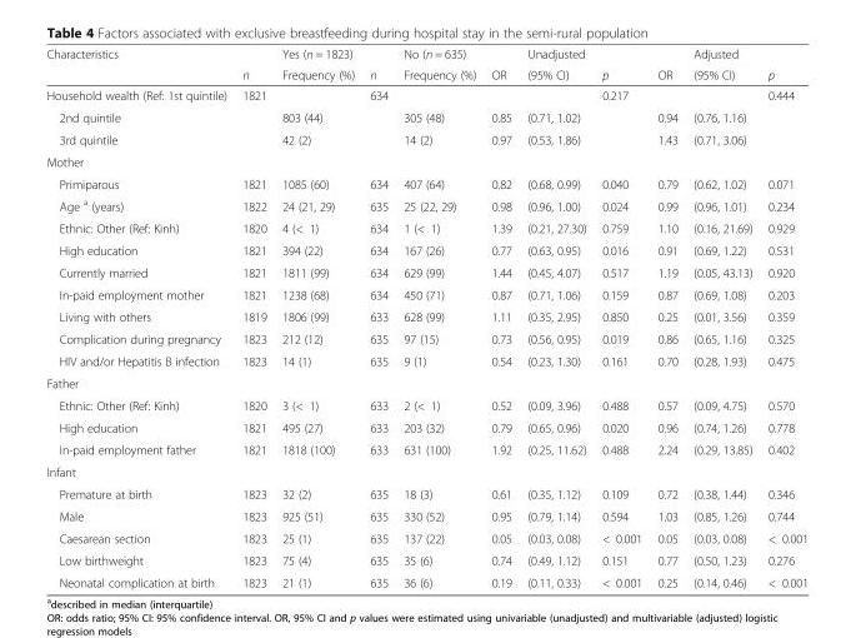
<table><thead><tr><td rowspan="2">Characteristics</td><td rowspan="2">n</td><td rowspan="2">Yes (n = 1823) Frequency (%)</td><td rowspan="2">n</td><td rowspan="2">No (n = 635) Frequency (%)</td><td rowspan="2">OR</td><td rowspan="2">Unadjusted (95% CI)</td><td rowspan="2">p</td><td rowspan="2">OR</td><td rowspan="2">Adjusted (95% CI)</td><td rowspan="2">p</td></tr><tr></tr></thead><tbody><tr><td>Household wealth (Ref: 1st quintile)</td><td>1821</td><td></td><td>634</td><td></td><td></td><td></td><td>0.217</td><td></td><td></td><td>0.444</td></tr><tr><td>2nd quintile</td><td></td><td>803 (44)</td><td></td><td>305 (48)</td><td>0.85</td><td>(0.71, 1.02)</td><td></td><td>0.94</td><td>(0.76, 1.16)</td><td></td></tr><tr><td>3rd quintile</td><td></td><td>42 (2)</td><td></td><td>14 (2)</td><td>0.97</td><td>(0.53, 1.86)</td><td></td><td>1.43</td><td>(0.71, 3.06)</td><td></td></tr><tr><td colspan="11">Mother</td></tr><tr><td>Primiparous</td><td>1821</td><td>1085 (60)</td><td>634</td><td>407 (64)</td><td>0.82</td><td>(0.68, 0.99)</td><td>0.040</td><td>0.79</td><td>(0.62, 1.02)</td><td>0.071</td></tr><tr><td>Age <sup>a</sup> (years)</td><td>1822</td><td>24 (21, 29)</td><td>635</td><td>25 (22, 29)</td><td>0.98</td><td>(0.96, 1.00)</td><td>0.024</td><td>0.99</td><td>(0.96, 1.01)</td><td>0.234</td></tr><tr><td>Ethnic: Other (Ref: Kinh)</td><td>1820</td><td>4 (&lt; 1)</td><td>634</td><td>1 (&lt; 1)</td><td>1.39</td><td>(0.21, 27.30)</td><td>0.759</td><td>1.10</td><td>(0.16, 21.69)</td><td>0.929</td></tr><tr><td>High education</td><td>1821</td><td>394 (22)</td><td>634</td><td>167 (26)</td><td>0.77</td><td>(0.63, 0.95)</td><td>0.016</td><td>0.91</td><td>(0.69, 1.22)</td><td>0.531</td></tr><tr><td>Currently married</td><td>1821</td><td>1811 (99)</td><td>634</td><td>629 (99)</td><td>1.44</td><td>(0.45, 4.07)</td><td>0.517</td><td>1.19</td><td>(0.05, 43.13)</td><td>0.920</td></tr><tr><td>In-paid employment mother</td><td>1821</td><td>1238 (68)</td><td>634</td><td>450 (71)</td><td>0.87</td><td>(0.71, 1.06)</td><td>0.159</td><td>0.87</td><td>(0.69, 1.08)</td><td>0.203</td></tr><tr><td>Living with others</td><td>1819</td><td>1806 (99)</td><td>633</td><td>628 (99)</td><td>1.11</td><td>(0.35, 2.95)</td><td>0.850</td><td>0.25</td><td>(0.01, 3.56)</td><td>0.359</td></tr><tr><td>Complication during pregnancy</td><td>1823</td><td>212 (12)</td><td>635</td><td>97 (15)</td><td>0.73</td><td>(0.56, 0.95)</td><td>0.019</td><td>0.86</td><td>(0.65, 1.16)</td><td>0.325</td></tr><tr><td>HIV and/or Hepatitis B infection</td><td>1823</td><td>14 (1)</td><td>635</td><td>9 (1)</td><td>0.54</td><td>(0.23, 1.30)</td><td>0.161</td><td>0.70</td><td>(0.28, 1.93)</td><td>0.475</td></tr><tr><td colspan="11">Father</td></tr><tr><td>Ethnic: Other (Ref: Kinh)</td><td>1820</td><td>3 (&lt; 1)</td><td>633</td><td>2 (&lt; 1)</td><td>0.52</td><td>(0.09, 3.96)</td><td>0.488</td><td>0.57</td><td>(0.09, 4.75)</td><td>0.570</td></tr><tr><td>High education</td><td>1821</td><td>495 (27)</td><td>633</td><td>203 (32)</td><td>0.79</td><td>(0.65, 0.96)</td><td>0.020</td><td>0.96</td><td>(0.74, 1.26)</td><td>0.778</td></tr><tr><td>In-paid employment father</td><td>1821</td><td>1818 (100)</td><td>633</td><td>631 (100)</td><td>1.92</td><td>(0.25, 11.62)</td><td>0.488</td><td>2.24</td><td>(0.29, 13.85)</td><td>0.402</td></tr><tr><td colspan="11">Infant</td></tr><tr><td>Premature at birth</td><td>1823</td><td>32 (2)</td><td>635</td><td>18 (3)</td><td>0.61</td><td>(0.35, 1.12)</td><td>0.109</td><td>0.72</td><td>(0.38, 1.44)</td><td>0.346</td></tr><tr><td>Male</td><td>1823</td><td>925 (51)</td><td>635</td><td>330 (52)</td><td>0.95</td><td>(0.79, 1.14)</td><td>0.594</td><td>1.03</td><td>(0.85, 1.26)</td><td>0.744</td></tr><tr><td>Caesarean section</td><td>1823</td><td>25 (1)</td><td>635</td><td>137 (22)</td><td>0.05</td><td>(0.03, 0.08)</td><td>&lt; 0.001</td><td>0.05</td><td>(0.03, 0.08)</td><td>&lt; 0.001</td></tr><tr><td>Low birthweight</td><td>1823</td><td>75 (4)</td><td>635</td><td>35 (6)</td><td>0.74</td><td>(0.49, 1.12)</td><td>0.151</td><td>0.77</td><td>(0.50, 1.23)</td><td>0.276</td></tr><tr><td>Neonatal complication at birth</td><td>1823</td><td>21 (1)</td><td>635</td><td>36 (6)</td><td>0.19</td><td>(0.11, 0.33)</td><td>&lt; 0.001</td><td>0.25</td><td>(0.14, 0.46)</td><td>&lt; 0.001</td></tr></tbody></table>